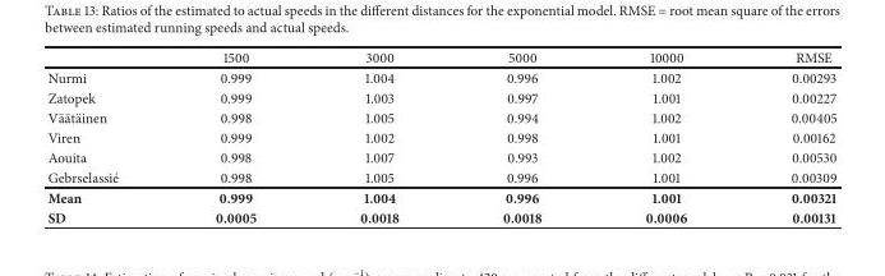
<table><thead><tr><td></td><td>1500</td><td>3000</td><td>5000</td><td>10000</td><td>RMSE</td></tr></thead><tbody><tr><td>Nurmi</td><td>0.999</td><td>1.004</td><td>0.996</td><td>1.002</td><td>0.00293</td></tr><tr><td>Zatopek</td><td>0.999</td><td>1.003</td><td>0.997</td><td>1.001</td><td>0.00227</td></tr><tr><td>V¨a¨at¨ainen</td><td>0.998</td><td>1.005</td><td>0.994</td><td>1.002</td><td>0.00405</td></tr><tr><td>Viren</td><td>0.999</td><td>1.002</td><td>0.998</td><td>1.001</td><td>0.00162</td></tr><tr><td>Aouita</td><td>0.998</td><td>1.007</td><td>0.993</td><td>1.002</td><td>0.00530</td></tr><tr><td>Gebrselassi´e</td><td>0.998</td><td>1.005</td><td>0.996</td><td>1.001</td><td>0.00309</td></tr><tr><td>Mean</td><td>0.999</td><td>1.004</td><td>0.996</td><td>1.001</td><td>0.00321</td></tr><tr><td>SD</td><td>0.0005</td><td>0.0018</td><td>0.0018</td><td>0.0006</td><td>0.00131</td></tr></tbody></table>